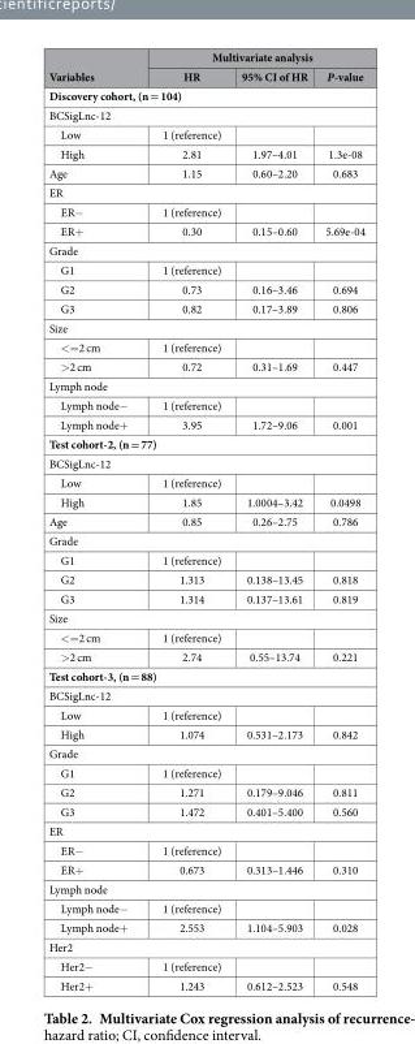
<table><thead><tr><td rowspan="2">Variables</td><td colspan="3">Multivariate analysis</td></tr><tr><td>HR</td><td>95% CI of HR</td><td>P-value</td></tr></thead><tbody><tr><td colspan="4">Discovery cohort, (n = 104)</td></tr><tr><td colspan="4">BCSigLnc-12</td></tr><tr><td>Low</td><td>1 (reference)</td><td></td><td></td></tr><tr><td>High</td><td>2.81</td><td>1.97–4.01</td><td>1.3e-08</td></tr><tr><td>Age</td><td>1.15</td><td>0.60–2.20</td><td>0.683</td></tr><tr><td colspan="4">ER</td></tr><tr><td>ER−</td><td>1 (reference)</td><td></td><td></td></tr><tr><td>ER+</td><td>0.30</td><td>0.15–0.60</td><td>5.69e-04</td></tr><tr><td colspan="4">Grade</td></tr><tr><td>G1</td><td>1 (reference)</td><td></td><td></td></tr><tr><td>G2</td><td>0.73</td><td>0.16–3.46</td><td>0.694</td></tr><tr><td>G3</td><td>0.82</td><td>0.17–3.89</td><td>0.806</td></tr><tr><td colspan="4">Size</td></tr><tr><td>&lt; = 2 cm</td><td>1 (reference)</td><td></td><td></td></tr><tr><td>&gt; 2 cm</td><td>0.72</td><td>0.31–1.69</td><td>0.447</td></tr><tr><td colspan="4">Lymph node</td></tr><tr><td>Lymph node−</td><td>1 (reference)</td><td></td><td></td></tr><tr><td>Lymph node+</td><td>3.95</td><td>1.72–9.06</td><td>0.001</td></tr><tr><td colspan="4">Test cohort-2, (n = 77)</td></tr><tr><td colspan="4">BCSigLnc-12</td></tr><tr><td>Low</td><td>1 (reference)</td><td></td><td></td></tr><tr><td>High</td><td>1.85</td><td>1.0004–3.42</td><td>0.0498</td></tr><tr><td>Age</td><td>0.85</td><td>0.26–2.75</td><td>0.786</td></tr><tr><td colspan="4">Grade</td></tr><tr><td>G1</td><td>1 (reference)</td><td></td><td></td></tr><tr><td>G2</td><td>1.313</td><td>0.138–13.45</td><td>0.818</td></tr><tr><td>G3</td><td>1.314</td><td>0.137–13.61</td><td>0.819</td></tr><tr><td colspan="4">Size</td></tr><tr><td>&lt; = 2 cm</td><td>1 (reference)</td><td></td><td></td></tr><tr><td>&gt; 2 cm</td><td>2.74</td><td>0.55–13.74</td><td>0.221</td></tr><tr><td colspan="4">Test cohort-3, (n = 88)</td></tr><tr><td colspan="4">BCSigLnc-12</td></tr><tr><td>Low</td><td>1 (reference)</td><td></td><td></td></tr><tr><td>High</td><td>1.074</td><td>0.531–2.173</td><td>0.842</td></tr><tr><td colspan="4">Grade</td></tr><tr><td>G1</td><td>1 (reference)</td><td></td><td></td></tr><tr><td>G2</td><td>1.271</td><td>0.179–9.046</td><td>0.811</td></tr><tr><td>G3</td><td>1.472</td><td>0.401–5.400</td><td>0.560</td></tr><tr><td colspan="4">ER</td></tr><tr><td>ER−</td><td>1 (reference)</td><td></td><td></td></tr><tr><td>ER+</td><td>0.673</td><td>0.313–1.446</td><td>0.310</td></tr><tr><td colspan="4">Lymph node</td></tr><tr><td>Lymph node−</td><td>1 (reference)</td><td></td><td></td></tr><tr><td>Lymph node+</td><td>2.553</td><td>1.104–5.903</td><td>0.028</td></tr><tr><td colspan="4">Her2</td></tr><tr><td>Her2−</td><td>1 (reference)</td><td></td><td></td></tr><tr><td>Her2+</td><td>1.243</td><td>0.612–2.523</td><td>0.548</td></tr></tbody></table>